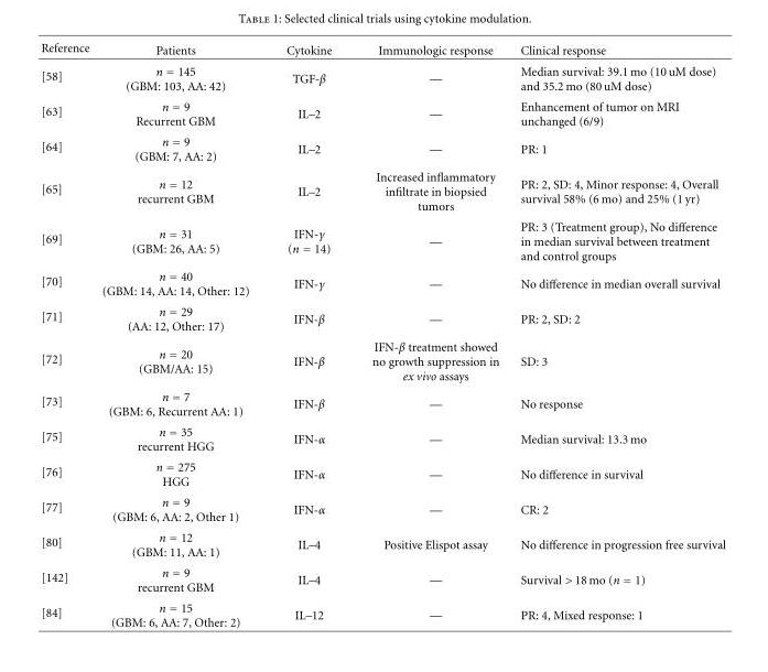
<table><thead><tr><td>Reference</td><td>Patients</td><td>Cytokine</td><td>Immunologic response</td><td>Clinical response</td></tr></thead><tbody><tr><td>[58]</td><td>n = 145 (GBM: 103, AA: 42)</td><td>TGF-β</td><td>—</td><td>Median survival: 39.1 mo (10 uM dose) and 35.2 mo (80 uM dose)</td></tr><tr><td>[63]</td><td>n = 9 Recurrent GBM</td><td>IL–2</td><td>—</td><td>Enhancement of tumor on MRI unchanged (6/9)</td></tr><tr><td>[64]</td><td>n = 9 (GBM: 7, AA: 2)</td><td>IL–2</td><td>—</td><td>PR: 1</td></tr><tr><td>[65]</td><td>n = 12 recurrent GBM</td><td>IL–2</td><td>Increased inflammatory infiltrate in biopsied tumors</td><td>PR: 2, SD: 4, Minor response: 4, Overall survival 58% (6 mo) and 25% (1 yr)</td></tr><tr><td>[69]</td><td>n = 31 (GBM: 26, AA: 5)</td><td>IFN-γ (n = 14)</td><td>—</td><td>PR: 3 (Treatment group), No difference in median survival between treatment and control groups</td></tr><tr><td>[70]</td><td>n = 40 (GBM: 14, AA: 14, Other: 12)</td><td>IFN-γ</td><td>—</td><td>No difference in median overall survival</td></tr><tr><td>[71]</td><td>n = 29 (AA: 12, Other: 17)</td><td>IFN-β</td><td>—</td><td>PR: 2, SD: 2</td></tr><tr><td>[72]</td><td>n = 20 (GBM/AA: 15)</td><td>IFN-β</td><td>IFN-β treatment showed no growth suppression in ex vivo assays</td><td>SD: 3</td></tr><tr><td>[73]</td><td>n = 7 (GBM: 6, Recurrent AA: 1)</td><td>IFN-β</td><td>—</td><td>No response</td></tr><tr><td>[75]</td><td>n = 35 recurrent HGG</td><td>IFN-α</td><td>—</td><td>Median survival: 13.3 mo</td></tr><tr><td>[76]</td><td>n = 275 HGG</td><td>IFN-α</td><td>—</td><td>No difference in survival</td></tr><tr><td>[77]</td><td>n = 9 (GBM: 6, AA: 2, Other 1)</td><td>IFN-α</td><td>—</td><td>CR: 2</td></tr><tr><td>[80]</td><td>n = 12 (GBM: 11, AA: 1)</td><td>IL–4</td><td>Positive Elispot assay</td><td>No difference in progression free survival</td></tr><tr><td>[142]</td><td>n = 9 recurrent GBM</td><td>IL–4</td><td>—</td><td>Survival &gt; 18 mo (n = 1)</td></tr><tr><td>[84]</td><td>n = 15 (GBM: 6, AA: 7, Other: 2)</td><td>IL–12</td><td>—</td><td>PR: 4, Mixed response: 1</td></tr></tbody></table>